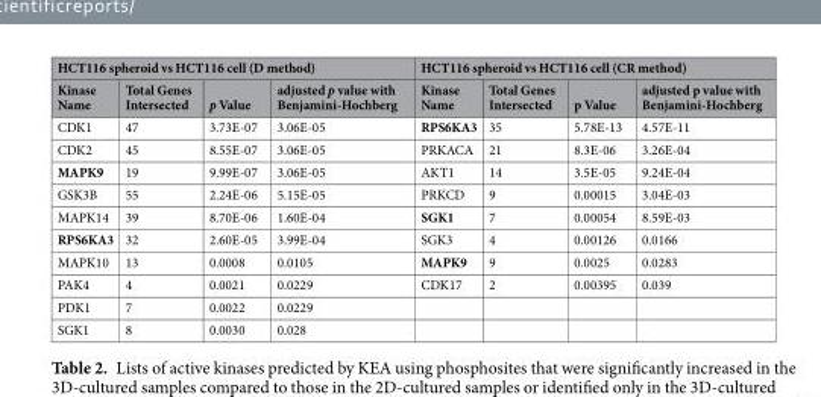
<table><thead><tr><td colspan="4">HCT116 spheroid vs HCT116 cell (D method)</td><td colspan="4">HCT116 spheroid vs HCT116 cell (CR method)</td></tr><tr><td>Kinase Name</td><td>Total Genes Intersected</td><td>p Value</td><td>adjusted p value with Benjamini-Hochberg</td><td>Kinase Name</td><td>Total Genes Intersected</td><td>p Value</td><td>adjusted p value with Benjamini-Hochberg</td></tr></thead><tbody><tr><td>CDK1</td><td>47</td><td>3.73E-07</td><td>3.06E-05</td><td>RPS6KA3</td><td>35</td><td>5.78E-13</td><td>4.57E-11</td></tr><tr><td>CDK2</td><td>45</td><td>8.55E-07</td><td>3.06E-05</td><td>PRKACA</td><td>21</td><td>8.3E-06</td><td>3.26E-04</td></tr><tr><td>MAPK9</td><td>19</td><td>9.99E-07</td><td>3.06E-05</td><td>AKT1</td><td>14</td><td>3.5E-05</td><td>9.24E-04</td></tr><tr><td>GSK3B</td><td>55</td><td>2.24E-06</td><td>5.15E-05</td><td>PRKCD</td><td>9</td><td>0.00015</td><td>3.04E-03</td></tr><tr><td>MAPK14</td><td>39</td><td>8.70E-06</td><td>1.60E-04</td><td>SGK1</td><td>7</td><td>0.00054</td><td>8.59E-03</td></tr><tr><td>RPS6KA3</td><td>32</td><td>2.60E-05</td><td>3.99E-04</td><td>SGK3</td><td>4</td><td>0.00126</td><td>0.0166</td></tr><tr><td>MAPK10</td><td>13</td><td>0.0008</td><td>0.0105</td><td>MAPK9</td><td>9</td><td>0.0025</td><td>0.0283</td></tr><tr><td>PAK4</td><td>4</td><td>0.0021</td><td>0.0229</td><td>CDK17</td><td>2</td><td>0.00395</td><td>0.039</td></tr><tr><td>PDK1</td><td>7</td><td>0.0022</td><td>0.0229</td><td></td><td></td><td></td><td></td></tr><tr><td>SGK1</td><td>8</td><td>0.0030</td><td>0.028</td><td></td><td></td><td></td><td></td></tr></tbody></table>